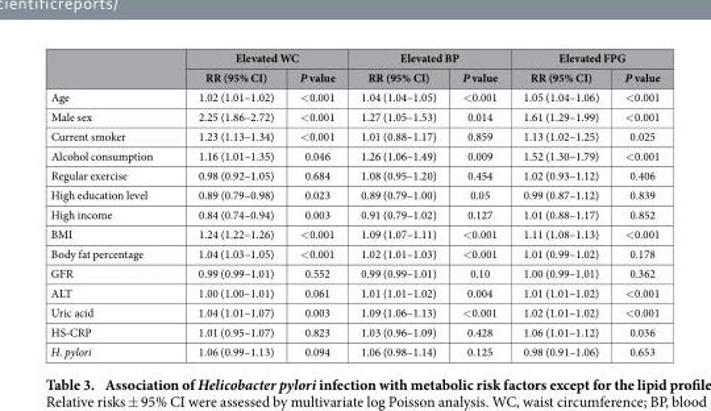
<table><thead><tr><td rowspan="2"></td><td colspan="2">Elevated WC</td><td colspan="2">Elevated BP</td><td colspan="2">Elevated FPG</td></tr><tr><td>RR (95% CI)</td><td>P value</td><td>RR (95% CI)</td><td>P value</td><td>RR (95% CI)</td><td>P value</td></tr></thead><tbody><tr><td>Age</td><td>1.02 (1.01–1.02)</td><td>&lt; 0.001</td><td>1.04 (1.04–1.05)</td><td>&lt; 0.001</td><td>1.05 (1.04–1.06)</td><td>&lt; 0.001</td></tr><tr><td>Male sex</td><td>2.25 (1.86–2.72)</td><td>&lt; 0.001</td><td>1.27 (1.05–1.53)</td><td>0.014</td><td>1.61 (1.29–1.99)</td><td>&lt; 0.001</td></tr><tr><td>Current smoker</td><td>1.23 (1.13–1.34)</td><td>&lt; 0.001</td><td>1.01 (0.88–1.17)</td><td>0.859</td><td>1.13 (1.02–1.25)</td><td>0.025</td></tr><tr><td>Alcohol consumption</td><td>1.16 (1.01–1.35)</td><td>0.046</td><td>1.26 (1.06–1.49)</td><td>0.009</td><td>1.52 (1.30–1.79)</td><td>&lt; 0.001</td></tr><tr><td>Regular exercise</td><td>0.98 (0.92–1.05)</td><td>0.684</td><td>1.08 (0.95–1.20)</td><td>0.454</td><td>1.02 (0.93–1.12)</td><td>0.406</td></tr><tr><td>High education level</td><td>0.89 (0.79–0.98)</td><td>0.023</td><td>0.89 (0.79–1.00)</td><td>0.05</td><td>0.99 (0.87–1.12)</td><td>0.839</td></tr><tr><td>High income</td><td>0.84 (0.74–0.94)</td><td>0.003</td><td>0.91 (0.79–1.02)</td><td>0.127</td><td>1.01 (0.88–1.17)</td><td>0.852</td></tr><tr><td>BMI</td><td>1.24 (1.22–1.26)</td><td>&lt; 0.001</td><td>1.09 (1.07–1.11)</td><td>&lt; 0.001</td><td>1.11 (1.08–1.13)</td><td>&lt; 0.001</td></tr><tr><td>Body fat percentage</td><td>1.04 (1.03–1.05)</td><td>&lt; 0.001</td><td>1.02 (1.01–1.03)</td><td>&lt; 0.001</td><td>1.01 (0.99–1.02)</td><td>0.178</td></tr><tr><td>GFR</td><td>0.99 (0.99–1.01)</td><td>0.552</td><td>0.99 (0.99–1.01)</td><td>0.10</td><td>1.00 (0.99–1.01)</td><td>0.362</td></tr><tr><td>ALT</td><td>1.00 (1.00–1.01)</td><td>0.061</td><td>1.01 (1.01–1.02)</td><td>0.004</td><td>1.01 (1.01–1.02)</td><td>&lt; 0.001</td></tr><tr><td>Uric acid</td><td>1.04 (1.01–1.07)</td><td>0.003</td><td>1.09 (1.06–1.13)</td><td>&lt; 0.001</td><td>1.02 (1.01–1.02)</td><td>&lt; 0.001</td></tr><tr><td>HS-CRP</td><td>1.01 (0.95–1.07)</td><td>0.823</td><td>1.03 (0.96–1.09)</td><td>0.428</td><td>1.06 (1.01–1.12)</td><td>0.036</td></tr><tr><td>H. pylori</td><td>1.06 (0.99–1.13)</td><td>0.094</td><td>1.06 (0.98–1.14)</td><td>0.125</td><td>0.98 (0.91–1.06)</td><td>0.653</td></tr></tbody></table>